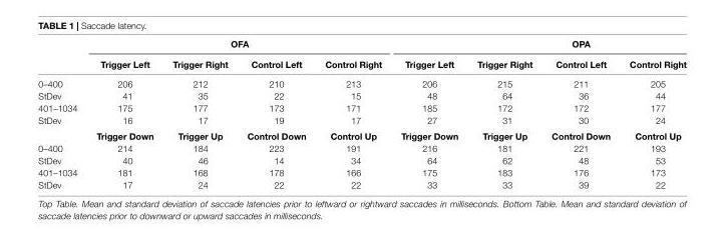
<table><thead><tr><td rowspan="2"></td><td colspan="4">OFA</td><td colspan="4">OPA</td></tr><tr><td>Trigger Left</td><td>Trigger Right</td><td>Control Left</td><td>Control Right</td><td>Trigger Left</td><td>Trigger Right</td><td>Control Left</td><td>Control Right</td></tr></thead><tbody><tr><td>0–400</td><td>206</td><td>212</td><td>210</td><td>213</td><td>206</td><td>215</td><td>211</td><td>205</td></tr><tr><td>StDev</td><td>41</td><td>35</td><td>22</td><td>15</td><td>48</td><td>64</td><td>36</td><td>44</td></tr><tr><td>401–1034</td><td>175</td><td>177</td><td>173</td><td>171</td><td>185</td><td>172</td><td>172</td><td>177</td></tr><tr><td rowspan="2">StDev</td><td>16</td><td>17</td><td>19</td><td>17</td><td>27</td><td>31</td><td>30</td><td>24</td></tr><tr><td>Trigger Down</td><td>Trigger Up</td><td>Control Down</td><td>Control Up</td><td>Trigger Down</td><td>Trigger Up</td><td>Control Down</td><td>Control Up</td></tr><tr><td>0–400</td><td>214</td><td>184</td><td>223</td><td>191</td><td>216</td><td>181</td><td>221</td><td>193</td></tr><tr><td>StDev</td><td>40</td><td>46</td><td>14</td><td>34</td><td>64</td><td>62</td><td>48</td><td>53</td></tr><tr><td>401–1034</td><td>181</td><td>168</td><td>178</td><td>166</td><td>175</td><td>183</td><td>176</td><td>173</td></tr><tr><td>StDev</td><td>17</td><td>24</td><td>22</td><td>22</td><td>33</td><td>33</td><td>39</td><td>22</td></tr></tbody></table>